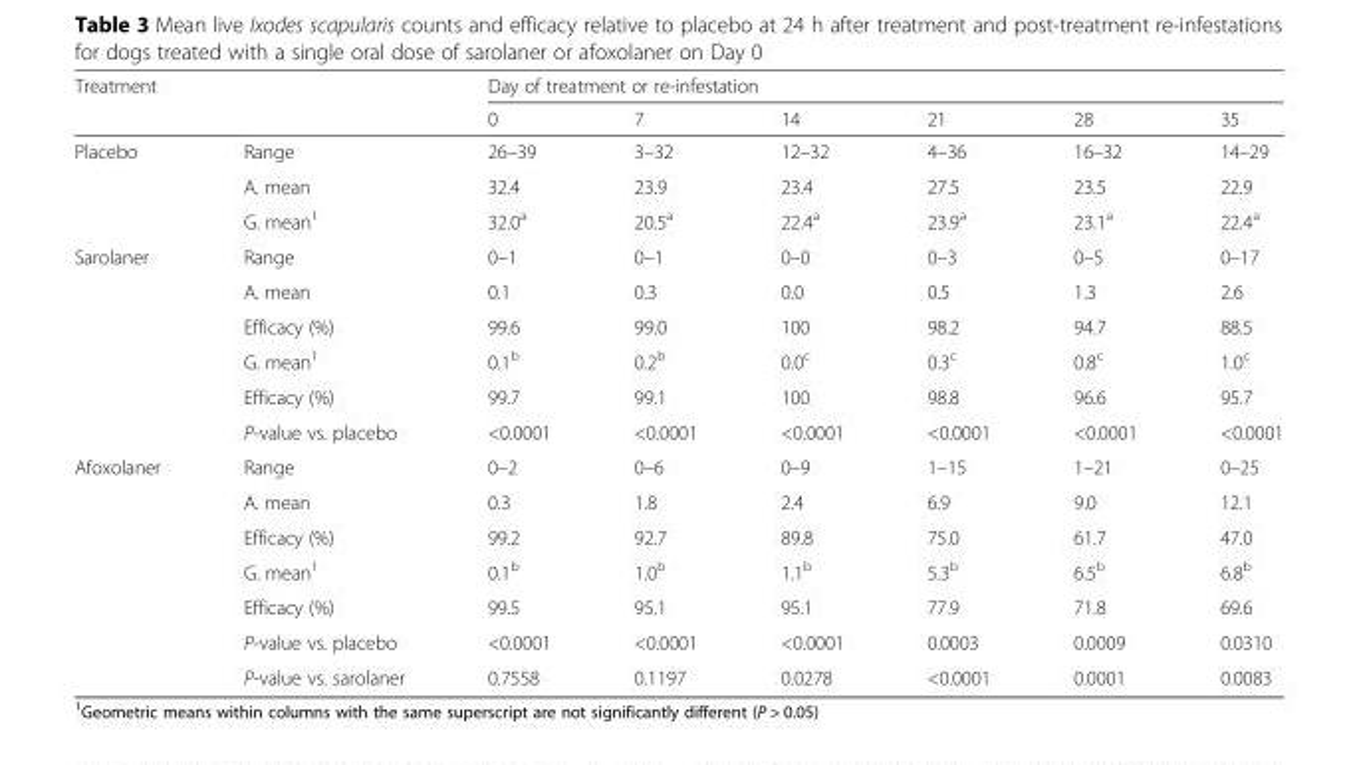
<table><thead><tr><td rowspan="2">Treatment</td><td rowspan="2"></td><td colspan="6">Day of treatment or re-infestation</td></tr><tr><td>0</td><td>7</td><td>14</td><td>21</td><td>28</td><td>35</td></tr></thead><tbody><tr><td rowspan="3">Placebo</td><td>Range</td><td>26–39</td><td>3–32</td><td>12–32</td><td>4–36</td><td>16–32</td><td>14–29</td></tr><tr><td>A. mean</td><td>32.4</td><td>23.9</td><td>23.4</td><td>27.5</td><td>23.5</td><td>22.9</td></tr><tr><td>G. mean<sup>1</sup></td><td>32.0<sup>a</sup></td><td>20.5<sup>a</sup></td><td>22.4<sup>a</sup></td><td>23.9<sup>a</sup></td><td>23.1<sup>a</sup></td><td>22.4<sup>a</sup></td></tr><tr><td rowspan="6">Sarolaner</td><td>Range</td><td>0–1</td><td>0–1</td><td>0–0</td><td>0–3</td><td>0–5</td><td>0–17</td></tr><tr><td>A. mean</td><td>0.1</td><td>0.3</td><td>0.0</td><td>0.5</td><td>1.3</td><td>2.6</td></tr><tr><td>Efficacy (%)</td><td>99.6</td><td>99.0</td><td>100</td><td>98.2</td><td>94.7</td><td>88.5</td></tr><tr><td>G. mean<sup>1</sup></td><td>0.1<sup>b</sup></td><td>0.2<sup>b</sup></td><td>0.0<sup>c</sup></td><td>0.3<sup>c</sup></td><td>0.8<sup>c</sup></td><td>1.0<sup>c</sup></td></tr><tr><td>Efficacy (%)</td><td>99.7</td><td>99.1</td><td>100</td><td>98.8</td><td>96.6</td><td>95.7</td></tr><tr><td>P-value vs. placebo</td><td>&lt;0.0001</td><td>&lt;0.0001</td><td>&lt;0.0001</td><td>&lt;0.0001</td><td>&lt;0.0001</td><td>&lt;0.0001</td></tr><tr><td rowspan="7">Afoxolaner</td><td>Range</td><td>0–2</td><td>0–6</td><td>0–9</td><td>1–15</td><td>1–21</td><td>0–25</td></tr><tr><td>A. mean</td><td>0.3</td><td>1.8</td><td>2.4</td><td>6.9</td><td>9.0</td><td>12.1</td></tr><tr><td>Efficacy (%)</td><td>99.2</td><td>92.7</td><td>89.8</td><td>75.0</td><td>61.7</td><td>47.0</td></tr><tr><td>G. mean<sup>1</sup></td><td>0.1<sup>b</sup></td><td>1.0<sup>b</sup></td><td>1.1<sup>b</sup></td><td>5.3<sup>b</sup></td><td>6.5<sup>b</sup></td><td>6.8<sup>b</sup></td></tr><tr><td>Efficacy (%)</td><td>99.5</td><td>95.1</td><td>95.1</td><td>77.9</td><td>71.8</td><td>69.6</td></tr><tr><td>P-value vs. placebo</td><td>&lt;0.0001</td><td>&lt;0.0001</td><td>&lt;0.0001</td><td>0.0003</td><td>0.0009</td><td>0.0310</td></tr><tr><td>P-value vs. sarolaner</td><td>0.7558</td><td>0.1197</td><td>0.0278</td><td>&lt;0.0001</td><td>0.0001</td><td>0.0083</td></tr></tbody></table>